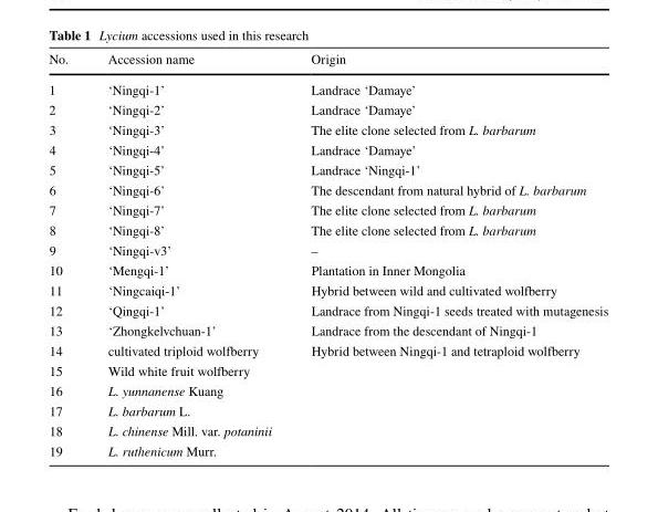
<table><thead><tr><td>No.</td><td>Accession name</td><td>Origin</td></tr></thead><tbody><tr><td>1</td><td>‘Ningqi-1’</td><td>Landrace ‘Damaye’</td></tr><tr><td>2</td><td>‘Ningqi-2’</td><td>Landrace ‘Damaye’</td></tr><tr><td>3</td><td>‘Ningqi-3’</td><td>The elite clone selected from L. barbarum</td></tr><tr><td>4</td><td>‘Ningqi-4’</td><td>Landrace ‘Damaye’</td></tr><tr><td>5</td><td>‘Ningqi-5’</td><td>Landrace ‘Ningqi-1’</td></tr><tr><td>6</td><td>‘Ningqi-6’</td><td>The descendant from natural hybrid of L. barbarum</td></tr><tr><td>7</td><td>‘Ningqi-7’</td><td>The elite clone selected from L. barbarum</td></tr><tr><td>8</td><td>‘Ningqi-8’</td><td>The elite clone selected from L. barbarum</td></tr><tr><td>9</td><td>‘Ningqi-v3’</td><td>–</td></tr><tr><td>10</td><td>‘Mengqi-1’</td><td>Plantation in Inner Mongolia</td></tr><tr><td>11</td><td>‘Ningcaiqi-1’</td><td>Hybrid between wild and cultivated wolfberry</td></tr><tr><td>12</td><td>‘Qingqi-1’</td><td>Landrace from Ningqi-1 seeds treated with mutagenesis</td></tr><tr><td>13</td><td>‘Zhongkelvchuan-1’</td><td>Landrace from the descendant of Ningqi-1</td></tr><tr><td>14</td><td>cultivated triploid wolfberry</td><td>Hybrid between Ningqi-1 and tetraploid wolfberry</td></tr><tr><td>15</td><td>Wild white fruit wolfberry</td><td></td></tr><tr><td>16</td><td>L. yunnanense Kuang</td><td></td></tr><tr><td>17</td><td>L. barbarum L.</td><td></td></tr><tr><td>18</td><td>L. chinense Mill. var. potaninii</td><td></td></tr><tr><td>19</td><td>L. ruthenicum Murr.</td><td></td></tr></tbody></table>